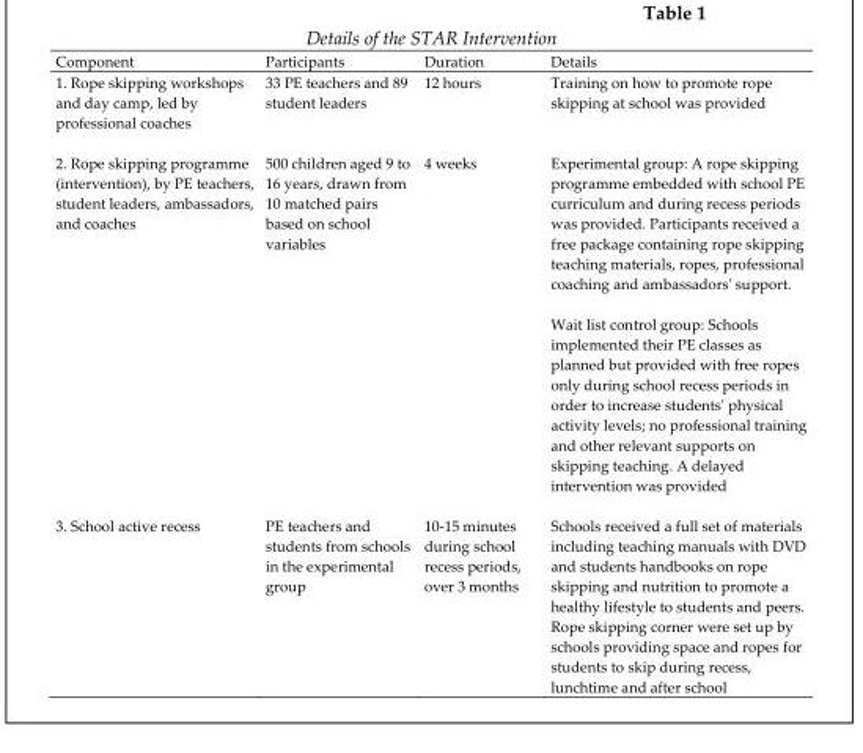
<table><thead><tr><td>Component</td><td>Participants</td><td>Duration</td><td>Details</td></tr></thead><tbody><tr><td>1. Rope skipping workshops and day camp, led by professional coaches</td><td>33 PE teachers and 89 student leaders</td><td>12 hours</td><td>Training on how to promote rope skipping at school was provided</td></tr><tr><td>2. Rope skipping programme (intervention), by PE teachers, student leaders, ambassadors, and coaches</td><td>500 children aged 9 to 16 years, drawn from 10 matched pairs based on school variables</td><td>4 weeks</td><td>Experimental group: A rope skipping programme embedded with school PE curriculum and during recess periods was provided. Participants received a free package containing rope skipping teaching materials, ropes, professional coaching and ambassadors&#x27; support. Wait list control group: Schools implemented their PE classes as planned but provided with free ropes only during school recess periods in order to increase students&#x27; physical activity levels; no professional training and other relevant supports on skipping teaching. A delayed intervention was provided</td></tr><tr><td>3. School active recess</td><td>PE teachers and students from schools in the experimental group</td><td>10-15 minutes during school recess periods, over 3 months</td><td>Schools received a full set of materials including teaching manuals with DVD and students handbooks on rope skipping and nutrition to promote a healthy lifestyle to students and peers. Rope skipping corner were set up by schools providing space and ropes for students to skip during recess, lunchtime and after school</td></tr></tbody></table>